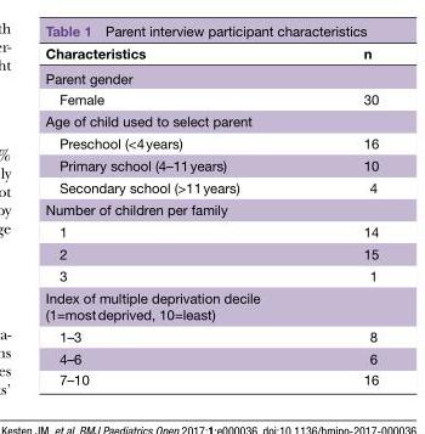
<table><thead><tr><td>Characteristics</td><td>n</td></tr></thead><tbody><tr><td colspan="2">Parent gender</td></tr><tr><td>Female</td><td>30</td></tr><tr><td colspan="2">Age of child used to select parent</td></tr><tr><td>Preschool (&lt;4 years)</td><td>16</td></tr><tr><td>Primary school (4–11 years)</td><td>10</td></tr><tr><td>Secondary school (&gt;11 years)</td><td>4</td></tr><tr><td colspan="2">Number of children per family</td></tr><tr><td>1</td><td>14</td></tr><tr><td>2</td><td>15</td></tr><tr><td>3</td><td>1</td></tr><tr><td colspan="2">Index of multiple deprivation decile (1=most deprived, 10=least)</td></tr><tr><td>1–3</td><td>8</td></tr><tr><td>4–6</td><td>6</td></tr><tr><td>7–10</td><td>16</td></tr></tbody></table>